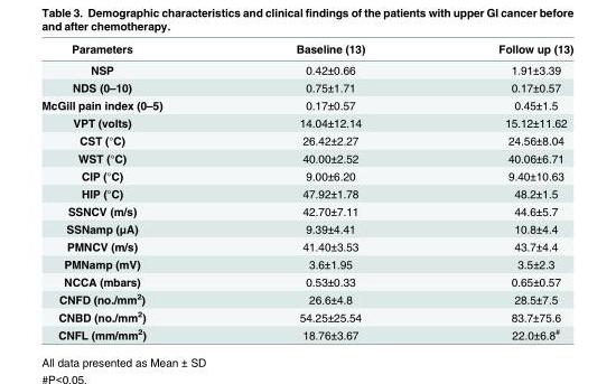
<table><thead><tr><td>Parameters</td><td>Baseline (13)</td><td>Follow up (13)</td></tr></thead><tbody><tr><td>NSP</td><td>0.42±0.66</td><td>1.91±3.39</td></tr><tr><td>NDS (0–10)</td><td>0.75±1.71</td><td>0.17±0.57</td></tr><tr><td>McGill pain index (0–5)</td><td>0.17±0.57</td><td>0.45±1.5</td></tr><tr><td>VPT (volts)</td><td>14.04±12.14</td><td>15.12±11.62</td></tr><tr><td>CST (°C)</td><td>26.42±2.27</td><td>24.56±8.04</td></tr><tr><td>WST (°C)</td><td>40.00±2.52</td><td>40.06±6.71</td></tr><tr><td>CIP (°C)</td><td>9.00±6.20</td><td>9.40±10.63</td></tr><tr><td>HIP (°C)</td><td>47.92±1.78</td><td>48.2±1.5</td></tr><tr><td>SSNCV (m/s)</td><td>42.70±7.11</td><td>44.6±5.7</td></tr><tr><td>SSNamp (μA)</td><td>9.39±4.41</td><td>10.8±4.4</td></tr><tr><td>PMNCV (m/s)</td><td>41.40±3.53</td><td>43.7±4.4</td></tr><tr><td>PMNamp (mV)</td><td>3.6±1.95</td><td>3.5±2.3</td></tr><tr><td>NCCA (mbars)</td><td>0.53±0.33</td><td>0.65±0.57</td></tr><tr><td>CNFD (no./mm<sup>2</sup>)</td><td>26.6±4.8</td><td>28.5±7.5</td></tr><tr><td>CNBD (no./mm<sup>2</sup>)</td><td>54.25±25.54</td><td>83.7±75.6</td></tr><tr><td>CNFL (mm/mm<sup>2</sup>)</td><td>18.76±3.67</td><td>22.0±6.8<sup>#</sup></td></tr></tbody></table>